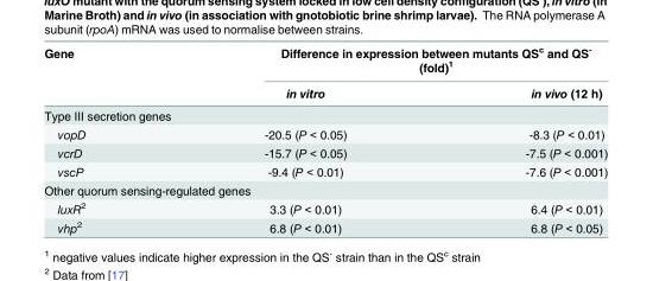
<table><thead><tr><td rowspan="2">Gene</td><td colspan="2">Difference in expression between mutants QS<sup>c</sup> and QS<sup>-</sup> (fold)<sup>1</sup></td></tr><tr><td>in vitro</td><td>in vivo (12 h)</td></tr></thead><tbody><tr><td colspan="3">Type III secretion genes</td></tr><tr><td>vopD</td><td>-20.5 (P &lt; 0.05)</td><td>-8.3 (P &lt; 0.01)</td></tr><tr><td>vcrD</td><td>-15.7 (P &lt; 0.05)</td><td>-7.5 (P &lt; 0.001)</td></tr><tr><td>vscP</td><td>-9.4 (P &lt; 0.01)</td><td>-7.6 (P &lt; 0.001)</td></tr><tr><td colspan="3">Other quorum sensing-regulated genes</td></tr><tr><td>luxR<sup>2</sup></td><td>3.3 (P &lt; 0.01)</td><td>6.4 (P &lt; 0.01)</td></tr><tr><td>vhp<sup>2</sup></td><td>6.8 (P &lt; 0.01)</td><td>6.8 (P &lt; 0.05)</td></tr></tbody></table>